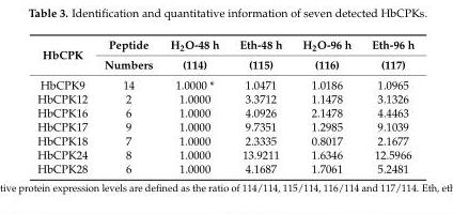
<table><thead><tr><td rowspan="2">HbCPK</td><td rowspan="2">Peptide Numbers</td><td rowspan="2">H<sub>2</sub>O-48 h (114)</td><td rowspan="2">Eth-48 h (115)</td><td rowspan="2">H<sub>2</sub>O-96 h (116)</td><td rowspan="2">Eth-96 h (117)</td></tr><tr></tr></thead><tbody><tr><td>HbCPK9</td><td>14</td><td>1.0000 *</td><td>1.0471</td><td>1.0186</td><td>1.0965</td></tr><tr><td>HbCPK12</td><td>2</td><td>1.0000</td><td>3.3712</td><td>1.1478</td><td>3.1326</td></tr><tr><td>HbCPK16</td><td>6</td><td>1.0000</td><td>4.0926</td><td>2.1478</td><td>4.4463</td></tr><tr><td>HbCPK17</td><td>9</td><td>1.0000</td><td>9.7351</td><td>1.2985</td><td>9.1039</td></tr><tr><td>HbCPK18</td><td>7</td><td>1.0000</td><td>2.3335</td><td>0.8017</td><td>2.1677</td></tr><tr><td>HbCPK24</td><td>8</td><td>1.0000</td><td>13.9211</td><td>1.6346</td><td>12.5966</td></tr><tr><td>HbCPK28</td><td>6</td><td>1.0000</td><td>4.1687</td><td>1.7061</td><td>5.2481</td></tr></tbody></table>